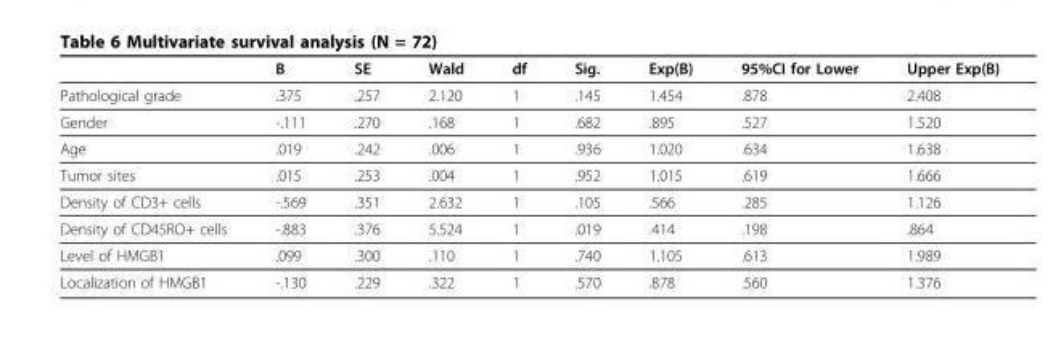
<table><thead><tr><td></td><td>B</td><td>SE</td><td>Wald</td><td>df</td><td>Sig.</td><td>Exp(B)</td><td>95%CI for Lower</td><td>Upper Exp(B)</td></tr></thead><tbody><tr><td>Pathological grade</td><td>.375</td><td>.257</td><td>2.120</td><td>1</td><td>.145</td><td>1.454</td><td>.878</td><td>2.408</td></tr><tr><td>Gender</td><td>-.111</td><td>.270</td><td>.168</td><td>1</td><td>.682</td><td>.895</td><td>.527</td><td>1.520</td></tr><tr><td>Age</td><td>.019</td><td>.242</td><td>.006</td><td>1</td><td>.936</td><td>1.020</td><td>.634</td><td>1.638</td></tr><tr><td>Tumor sites</td><td>.015</td><td>.253</td><td>.004</td><td>1</td><td>.952</td><td>1.015</td><td>.619</td><td>1.666</td></tr><tr><td>Density of CD3+ cells</td><td>-.569</td><td>.351</td><td>2.632</td><td>1</td><td>.105</td><td>.566</td><td>.285</td><td>1.126</td></tr><tr><td>Density of CD45RO+ cells</td><td>-.883</td><td>.376</td><td>5.524</td><td>1</td><td>.019</td><td>.414</td><td>.198</td><td>.864</td></tr><tr><td>Level of HMGB1</td><td>.099</td><td>.300</td><td>.110</td><td>1</td><td>.740</td><td>1.105</td><td>.613</td><td>1.989</td></tr><tr><td>Localization of HMGB1</td><td>-.130</td><td>.229</td><td>.322</td><td>1</td><td>.570</td><td>.878</td><td>.560</td><td>1.376</td></tr></tbody></table>